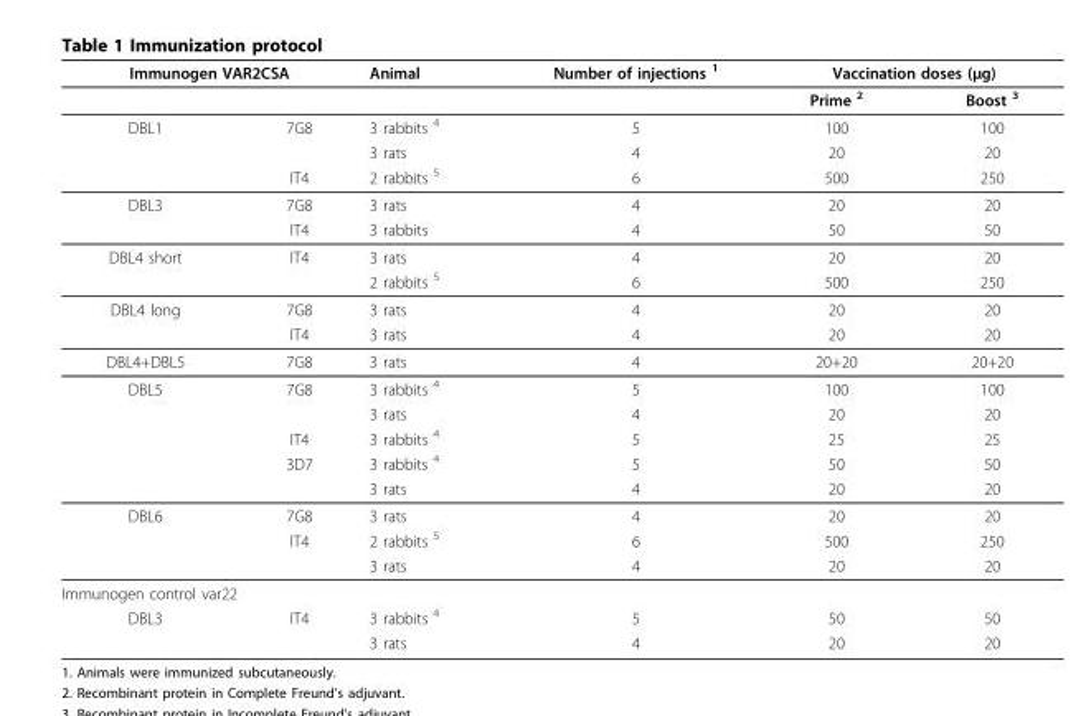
<table><thead><tr><td colspan="2">Immunogen VAR2CSA</td><td rowspan="2">Animal</td><td rowspan="2">Number of injections <sup>1</sup></td><td colspan="2">Vaccination doses (μg)</td></tr><tr><td></td><td></td><td>Prime <sup>2</sup></td><td>Boost <sup>3</sup></td></tr></thead><tbody><tr><td rowspan="3">DBL1</td><td>7G8</td><td>3 rabbits <sup>4</sup></td><td>5</td><td>100</td><td>100</td></tr><tr><td></td><td>3 rats</td><td>4</td><td>20</td><td>20</td></tr><tr><td>IT4</td><td>2 rabbits <sup>5</sup></td><td>6</td><td>500</td><td>250</td></tr><tr><td rowspan="2">DBL3</td><td>7G8</td><td>3 rats</td><td>4</td><td>20</td><td>20</td></tr><tr><td>IT4</td><td>3 rabbits</td><td>4</td><td>50</td><td>50</td></tr><tr><td rowspan="2">DBL4 short</td><td>IT4</td><td>3 rats</td><td>4</td><td>20</td><td>20</td></tr><tr><td></td><td>2 rabbits <sup>5</sup></td><td>6</td><td>500</td><td>250</td></tr><tr><td rowspan="2">DBL4 long</td><td>7G8</td><td>3 rats</td><td>4</td><td>20</td><td>20</td></tr><tr><td>IT4</td><td>3 rats</td><td>4</td><td>20</td><td>20</td></tr><tr><td>DBL4+DBL5</td><td>7G8</td><td>3 rats</td><td>4</td><td>20+20</td><td>20+20</td></tr><tr><td rowspan="5">DBL5</td><td>7G8</td><td>3 rabbits <sup>4</sup></td><td>5</td><td>100</td><td>100</td></tr><tr><td></td><td>3 rats</td><td>4</td><td>20</td><td>20</td></tr><tr><td>IT4</td><td>3 rabbits <sup>4</sup></td><td>5</td><td>25</td><td>25</td></tr><tr><td>3D7</td><td>3 rabbits <sup>4</sup></td><td>5</td><td>50</td><td>50</td></tr><tr><td></td><td>3 rats</td><td>4</td><td>20</td><td>20</td></tr><tr><td rowspan="3">DBL6</td><td>7G8</td><td>3 rats</td><td>4</td><td>20</td><td>20</td></tr><tr><td>IT4</td><td>2 rabbits <sup>5</sup></td><td>6</td><td>500</td><td>250</td></tr><tr><td></td><td>3 rats</td><td>4</td><td>20</td><td>20</td></tr><tr><td colspan="6">Immunogen control var22</td></tr><tr><td rowspan="2">DBL3</td><td>IT4</td><td>3 rabbits <sup>4</sup></td><td>5</td><td>50</td><td>50</td></tr><tr><td></td><td>3 rats</td><td>4</td><td>20</td><td>20</td></tr></tbody></table>